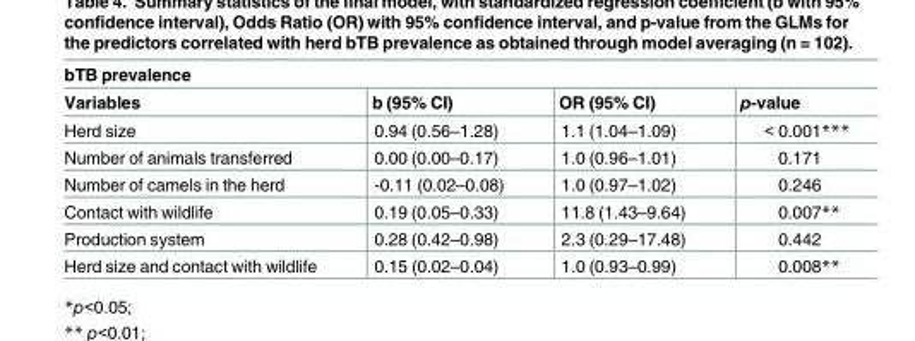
<table><thead><tr><td colspan="4">bTB prevalence</td></tr><tr><td>Variables</td><td>b (95% CI)</td><td>OR (95% CI)</td><td>p-value</td></tr></thead><tbody><tr><td>Herd size</td><td>0.94 (0.56–1.28)</td><td>1.1 (1.04–1.09)</td><td>&lt; 0.001***</td></tr><tr><td>Number of animals transferred</td><td>0.00 (0.00–0.17)</td><td>1.0 (0.96–1.01)</td><td>0.171</td></tr><tr><td>Number of camels in the herd</td><td>-0.11 (0.02–0.08)</td><td>1.0 (0.97–1.02)</td><td>0.246</td></tr><tr><td>Contact with wildlife</td><td>0.19 (0.05–0.33)</td><td>11.8 (1.43–9.64)</td><td>0.007**</td></tr><tr><td>Production system</td><td>0.28 (0.42–0.98)</td><td>2.3 (0.29–17.48)</td><td>0.442</td></tr><tr><td>Herd size and contact with wildlife</td><td>0.15 (0.02–0.04)</td><td>1.0 (0.93–0.99)</td><td>0.008**</td></tr></tbody></table>